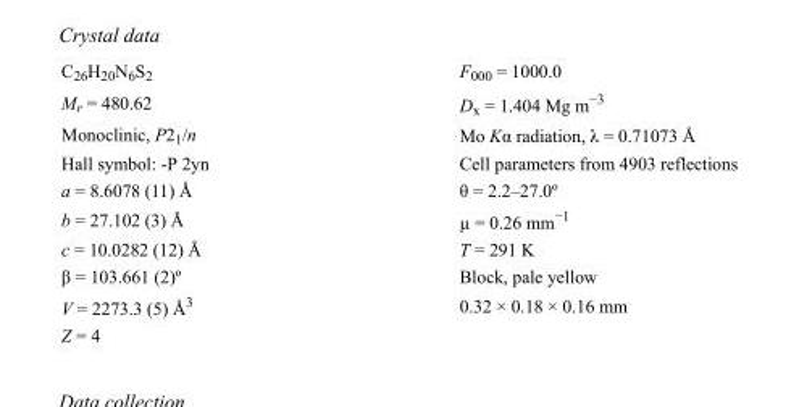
<table><tbody><tr><td>C<sub>26</sub>H<sub>20</sub>N<sub>6</sub>S<sub>2</sub></td><td>F000 = 1000.0</td></tr><tr><td>M<sub>r</sub> = 480.62</td><td>D<sub>x</sub> = 1.404 Mg m<sup>−3</sup></td></tr><tr><td>Monoclinic, P2<sub>1</sub>/n</td><td>Mo Kα radiation, λ = 0.71073 Å</td></tr><tr><td>Hall symbol: -P 2yn</td><td>Cell parameters from 4903 reflections</td></tr><tr><td>a = 8.6078 (11) Å</td><td>θ = 2.2–27.0º</td></tr><tr><td>b = 27.102 (3) Å</td><td>µ = 0.26 mm<sup>−1</sup></td></tr><tr><td>c = 10.0282 (12) Å</td><td>T = 291 K</td></tr><tr><td>β = 103.661 (2)º</td><td>Block, pale yellow</td></tr><tr><td>V = 2273.3 (5) Å<sup>3</sup></td><td>0.32 × 0.18 × 0.16 mm</td></tr><tr><td>Z = 4</td><td></td></tr></tbody></table>